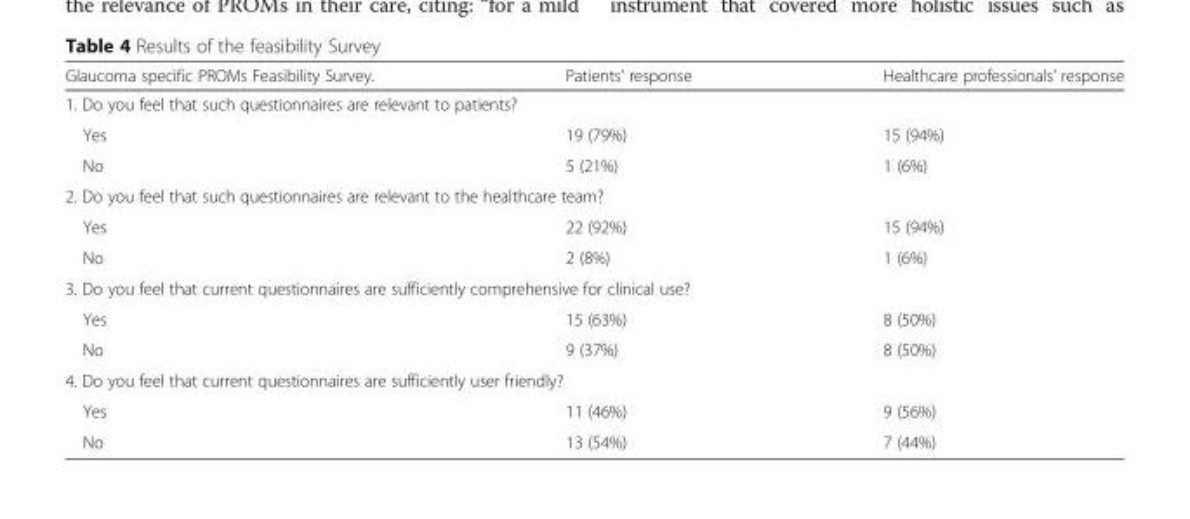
<table><thead><tr><td>Glaucoma specific PROMs Feasibility Survey.</td><td>Patients’ response</td><td>Healthcare professionals’ response</td></tr></thead><tbody><tr><td colspan="3">1. Do you feel that such questionnaires are relevant to patients?</td></tr><tr><td>Yes</td><td>19 (79%)</td><td>15 (94%)</td></tr><tr><td>No</td><td>5 (21%)</td><td>1 (6%)</td></tr><tr><td colspan="3">2. Do you feel that such questionnaires are relevant to the healthcare team?</td></tr><tr><td>Yes</td><td>22 (92%)</td><td>15 (94%)</td></tr><tr><td>No</td><td>2 (8%)</td><td>1 (6%)</td></tr><tr><td colspan="3">3. Do you feel that current questionnaires are sufficiently comprehensive for clinical use?</td></tr><tr><td>Yes</td><td>15 (63%)</td><td>8 (50%)</td></tr><tr><td>No</td><td>9 (37%)</td><td>8 (50%)</td></tr><tr><td colspan="3">4. Do you feel that current questionnaires are sufficiently user friendly?</td></tr><tr><td>Yes</td><td>11 (46%)</td><td>9 (56%)</td></tr><tr><td>No</td><td>13 (54%)</td><td>7 (44%)</td></tr></tbody></table>